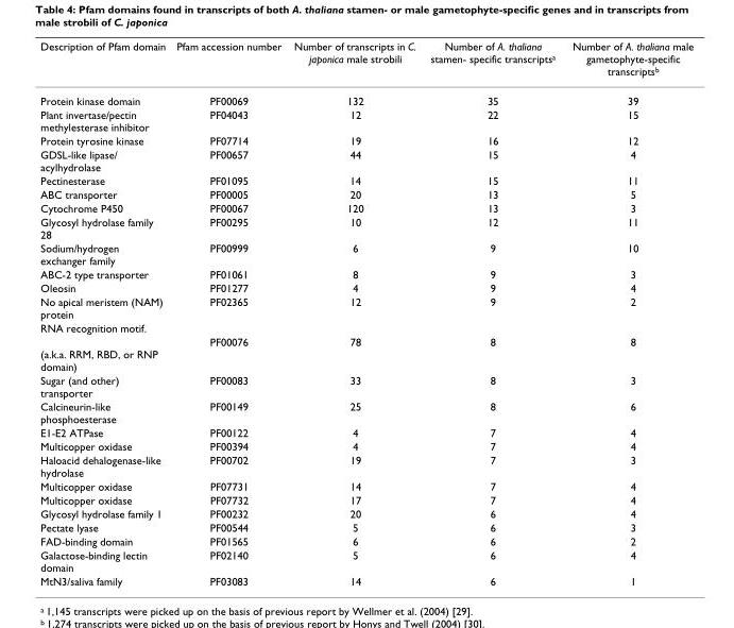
<table><thead><tr><td>Description of Pfam domain</td><td>Pfam accession number</td><td>Number of transcripts in C. japonica male strobili</td><td>Number of A. thaliana stamen- specific transcripts<sup>a</sup></td><td>Number of A. thaliana male gametophyte-specific transcripts<sup>b</sup></td></tr></thead><tbody><tr><td>Protein kinase domain</td><td>PF00069</td><td>132</td><td>35</td><td>39</td></tr><tr><td>Plant invertase/pectin methylesterase inhibitor</td><td>PF04043</td><td>12</td><td>22</td><td>15</td></tr><tr><td>Protein tyrosine kinase</td><td>PF07714</td><td>19</td><td>16</td><td>12</td></tr><tr><td>GDSL-like lipase/ acylhydrolase</td><td>PF00657</td><td>44</td><td>15</td><td>4</td></tr><tr><td>Pectinesterase</td><td>PF01095</td><td>14</td><td>15</td><td>11</td></tr><tr><td>ABC transporter</td><td>PF00005</td><td>20</td><td>13</td><td>5</td></tr><tr><td>Cytochrome P450</td><td>PF00067</td><td>120</td><td>13</td><td>3</td></tr><tr><td>Glycosyl hydrolase family 28</td><td>PF00295</td><td>10</td><td>12</td><td>11</td></tr><tr><td>Sodium/hydrogen exchanger family</td><td>PF00999</td><td>6</td><td>9</td><td>10</td></tr><tr><td>ABC-2 type transporter</td><td>PF01061</td><td>8</td><td>9</td><td>3</td></tr><tr><td>Oleosin</td><td>PF01277</td><td>4</td><td>9</td><td>4</td></tr><tr><td>No apical meristem (NAM) protein</td><td>PF02365</td><td>12</td><td>9</td><td>2</td></tr><tr><td colspan="5">RNA recognition motif.</td></tr><tr><td>(a.k.a. RRM, RBD, or RNP domain)</td><td>PF00076</td><td>78</td><td>8</td><td>8</td></tr><tr><td>Sugar (and other) transporter</td><td>PF00083</td><td>33</td><td>8</td><td>3</td></tr><tr><td>Calcineurin-like phosphoesterase</td><td>PF00149</td><td>25</td><td>8</td><td>6</td></tr><tr><td>E1-E2 ATPase</td><td>PF00122</td><td>4</td><td>7</td><td>4</td></tr><tr><td>Multicopper oxidase</td><td>PF00394</td><td>4</td><td>7</td><td>4</td></tr><tr><td>Haloacid dehalogenase-like hydrolase</td><td>PF00702</td><td>19</td><td>7</td><td>3</td></tr><tr><td>Multicopper oxidase</td><td>PF07731</td><td>14</td><td>7</td><td>4</td></tr><tr><td>Multicopper oxidase</td><td>PF07732</td><td>17</td><td>7</td><td>4</td></tr><tr><td>Glycosyl hydrolase family 1</td><td>PF00232</td><td>20</td><td>6</td><td>4</td></tr><tr><td>Pectate lyase</td><td>PF00544</td><td>5</td><td>6</td><td>3</td></tr><tr><td>FAD-binding domain</td><td>PF01565</td><td>6</td><td>6</td><td>2</td></tr><tr><td>Galactose-binding lectin domain</td><td>PF02140</td><td>5</td><td>6</td><td>4</td></tr><tr><td>MtN3/saliva family</td><td>PF03083</td><td>14</td><td>6</td><td>1</td></tr></tbody></table>